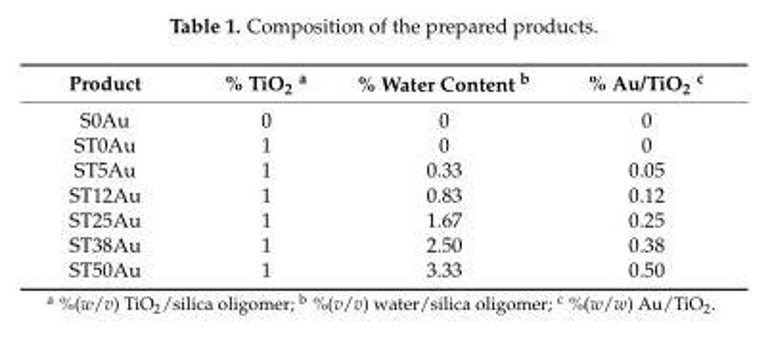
<table><thead><tr><td>Product</td><td>% TiO<sub>2</sub> <sup>a</sup></td><td>% Water Content <sup>b</sup></td><td>% Au/TiO<sub>2</sub> <sup>c</sup></td></tr></thead><tbody><tr><td>S0Au</td><td>0</td><td>0</td><td>0</td></tr><tr><td>ST0Au</td><td>1</td><td>0</td><td>0</td></tr><tr><td>ST5Au</td><td>1</td><td>0.33</td><td>0.05</td></tr><tr><td>ST12Au</td><td>1</td><td>0.83</td><td>0.12</td></tr><tr><td>ST25Au</td><td>1</td><td>1.67</td><td>0.25</td></tr><tr><td>ST38Au</td><td>1</td><td>2.50</td><td>0.38</td></tr><tr><td>ST50Au</td><td>1</td><td>3.33</td><td>0.50</td></tr></tbody></table>